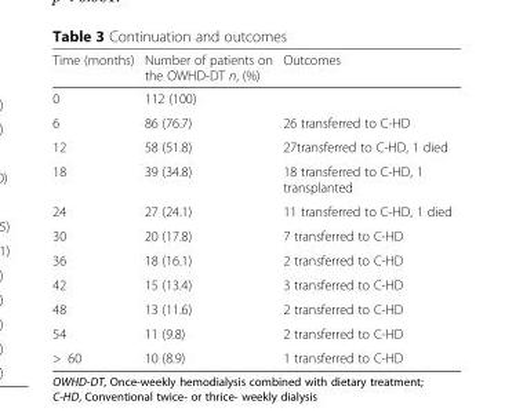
<table><thead><tr><td>Time (months)</td><td>Number of patients on the OWHD-DT n, (%)</td><td>Outcomes</td></tr></thead><tbody><tr><td>0</td><td>112 (100)</td><td></td></tr><tr><td>6</td><td>86 (76.7)</td><td>26 transferred to C-HD</td></tr><tr><td>12</td><td>58 (51.8)</td><td>27transferred to C-HD, 1 died</td></tr><tr><td>18</td><td>39 (34.8)</td><td>18 transferred to C-HD, 1 transplanted</td></tr><tr><td>24</td><td>27 (24.1)</td><td>11 transferred to C-HD, 1 died</td></tr><tr><td>30</td><td>20 (17.8)</td><td>7 transferred to C-HD</td></tr><tr><td>36</td><td>18 (16.1)</td><td>2 transferred to C-HD</td></tr><tr><td>42</td><td>15 (13.4)</td><td>3 transferred to C-HD</td></tr><tr><td>48</td><td>13 (11.6)</td><td>2 transferred to C-HD</td></tr><tr><td>54</td><td>11 (9.8)</td><td>2 transferred to C-HD</td></tr><tr><td>&gt; 60</td><td>10 (8.9)</td><td>1 transferred to C-HD</td></tr></tbody></table>